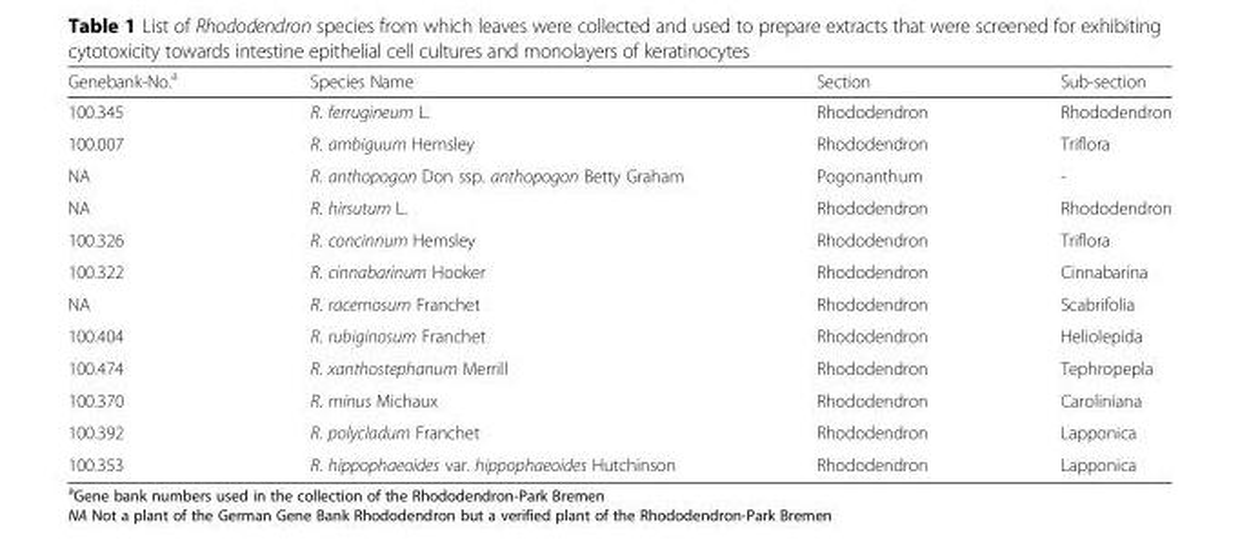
<table><thead><tr><td>Genebank-No.<sup>a</sup></td><td>Species Name</td><td>Section</td><td>Sub-section</td></tr></thead><tbody><tr><td>100.345</td><td>R. ferrugineum L.</td><td>Rhododendron</td><td>Rhododendron</td></tr><tr><td>100.007</td><td>R. ambiguum Hemsley</td><td>Rhododendron</td><td>Triflora</td></tr><tr><td>NA</td><td>R. anthopogon Don ssp. anthopogon Betty Graham</td><td>Pogonanthum</td><td>-</td></tr><tr><td>NA</td><td>R. hirsutum L.</td><td>Rhododendron</td><td>Rhododendron</td></tr><tr><td>100.326</td><td>R. concinnum Hemsley</td><td>Rhododendron</td><td>Triflora</td></tr><tr><td>100.322</td><td>R. cinnabarinum Hooker</td><td>Rhododendron</td><td>Cinnabarina</td></tr><tr><td>NA</td><td>R. racemosum Franchet</td><td>Rhododendron</td><td>Scabrifolia</td></tr><tr><td>100.404</td><td>R. rubiginosum Franchet</td><td>Rhododendron</td><td>Heliolepida</td></tr><tr><td>100.474</td><td>R. xanthostephanum Merrill</td><td>Rhododendron</td><td>Tephropepla</td></tr><tr><td>100.370</td><td>R. minus Michaux</td><td>Rhododendron</td><td>Caroliniana</td></tr><tr><td>100.392</td><td>R. polycladum Franchet</td><td>Rhododendron</td><td>Lapponica</td></tr><tr><td>100.353</td><td>R. hippophaeoides var. hippophaeoides Hutchinson</td><td>Rhododendron</td><td>Lapponica</td></tr></tbody></table>